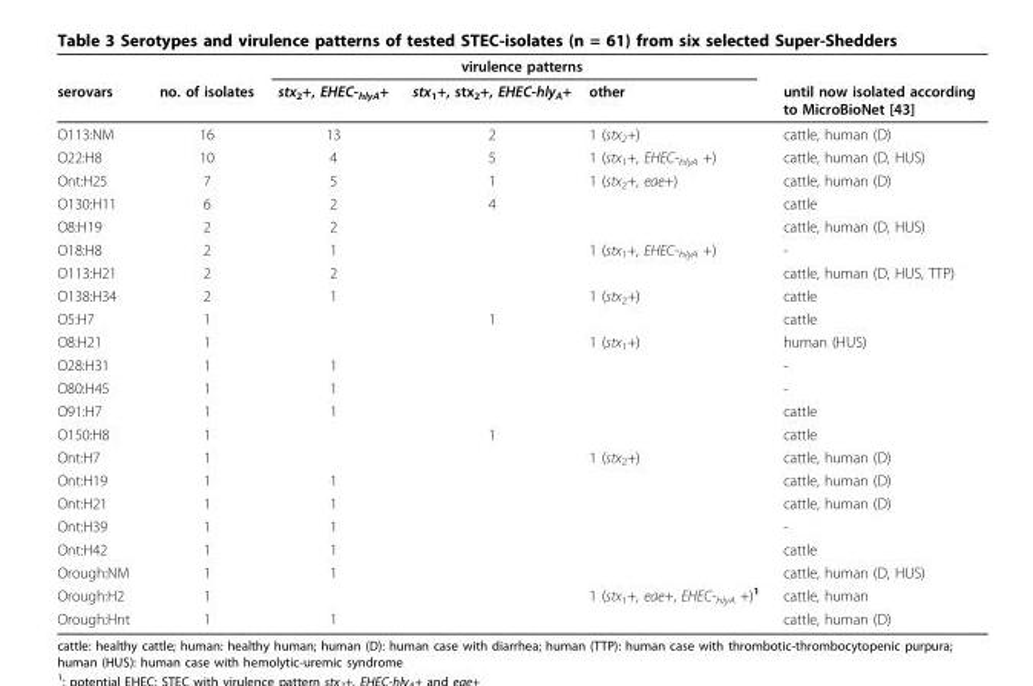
<table><thead><tr><td rowspan="2">serovars</td><td rowspan="2">no. of isolates</td><td colspan="3">virulence patterns</td><td rowspan="2">until now isolated according to MicroBioNet [43]</td></tr><tr><td>stx<sub>2</sub>+, EHEC-<sub>hlyA</sub>+</td><td>stx<sub>1</sub>+, stx<sub>2</sub>+, EHEC-hly<sub>A</sub>+</td><td>other</td></tr></thead><tbody><tr><td>O113:NM</td><td>16</td><td>13</td><td>2</td><td>1 (stx<sub>2</sub>+)</td><td>cattle, human (D)</td></tr><tr><td>O22:H8</td><td>10</td><td>4</td><td>5</td><td>1 (stx<sub>1</sub>+, EHEC-<sub>hlyA</sub> +)</td><td>cattle, human (D, HUS)</td></tr><tr><td>Ont:H25</td><td>7</td><td>5</td><td>1</td><td>1 (stx<sub>2</sub>+, eae+)</td><td>cattle, human (D)</td></tr><tr><td>O130:H11</td><td>6</td><td>2</td><td>4</td><td></td><td>cattle</td></tr><tr><td>O8:H19</td><td>2</td><td>2</td><td></td><td></td><td>cattle, human (D, HUS)</td></tr><tr><td>O18:H8</td><td>2</td><td>1</td><td></td><td>1 (stx<sub>1</sub>+, EHEC-<sub>hlyA</sub> +)</td><td>-</td></tr><tr><td>O113:H21</td><td>2</td><td>2</td><td></td><td></td><td>cattle, human (D, HUS, TTP)</td></tr><tr><td>O138:H34</td><td>2</td><td>1</td><td></td><td>1 (stx<sub>2</sub>+)</td><td>cattle</td></tr><tr><td>O5:H7</td><td>1</td><td></td><td>1</td><td></td><td>cattle</td></tr><tr><td>O8:H21</td><td>1</td><td></td><td></td><td>1 (stx<sub>1</sub>+)</td><td>human (HUS)</td></tr><tr><td>O28:H31</td><td>1</td><td>1</td><td></td><td></td><td>-</td></tr><tr><td>O80:H45</td><td>1</td><td>1</td><td></td><td></td><td>-</td></tr><tr><td>O91:H7</td><td>1</td><td>1</td><td></td><td></td><td>cattle</td></tr><tr><td>O150:H8</td><td>1</td><td></td><td>1</td><td></td><td>cattle</td></tr><tr><td>Ont:H7</td><td>1</td><td></td><td></td><td>1 (stx<sub>2</sub>+)</td><td>cattle, human (D)</td></tr><tr><td>Ont:H19</td><td>1</td><td>1</td><td></td><td></td><td>cattle, human (D)</td></tr><tr><td>Ont:H21</td><td>1</td><td>1</td><td></td><td></td><td>cattle, human (D)</td></tr><tr><td>Ont:H39</td><td>1</td><td>1</td><td></td><td></td><td>-</td></tr><tr><td>Ont:H42</td><td>1</td><td>1</td><td></td><td></td><td>cattle</td></tr><tr><td>Orough:NM</td><td>1</td><td>1</td><td></td><td></td><td>cattle, human (D, HUS)</td></tr><tr><td>Orough:H2</td><td>1</td><td></td><td></td><td>1 (stx<sub>1</sub>+, eae+, EHEC-<sub>hlyA</sub> +)<sup>1</sup></td><td>cattle, human</td></tr><tr><td>Orough:Hnt</td><td>1</td><td>1</td><td></td><td></td><td>cattle, human (D)</td></tr></tbody></table>